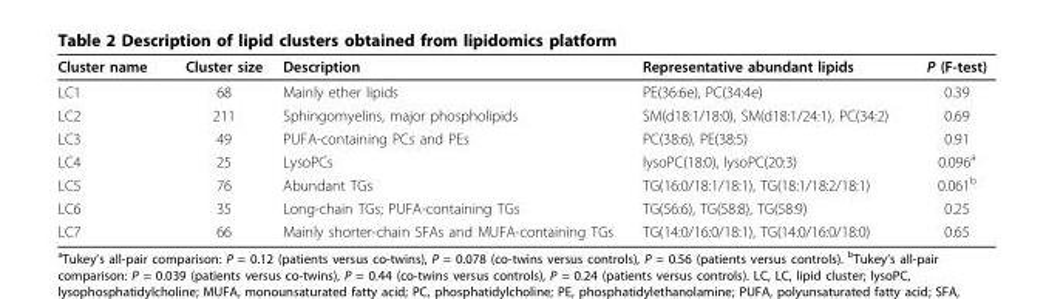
<table><thead><tr><td>Cluster name</td><td>Cluster size</td><td>Description</td><td>Representative abundant lipids</td><td>P (F-test)</td></tr></thead><tbody><tr><td>LC1</td><td>68</td><td>Mainly ether lipids</td><td>PE(36:6e), PC(34:4e)</td><td>0.39</td></tr><tr><td>LC2</td><td>211</td><td>Sphingomyelins, major phospholipids</td><td>SM(d18:1/18:0), SM(d18:1/24:1), PC(34:2)</td><td>0.69</td></tr><tr><td>LC3</td><td>49</td><td>PUFA-containing PCs and PEs</td><td>PC(38:6), PE(38:5)</td><td>0.91</td></tr><tr><td>LC4</td><td>25</td><td>LysoPCs</td><td>lysoPC(18:0), lysoPC(20:3)</td><td>0.096<sup>a</sup></td></tr><tr><td>LC5</td><td>76</td><td>Abundant TGs</td><td>TG(16:0/18:1/18:1), TG(18:1/18:2/18:1)</td><td>0.061<sup>b</sup></td></tr><tr><td>LC6</td><td>35</td><td>Long-chain TGs; PUFA-containing TGs</td><td>TG(56:6), TG(58:8), TG(58:9)</td><td>0.25</td></tr><tr><td>LC7</td><td>66</td><td>Mainly shorter-chain SFAs and MUFA-containing TGs</td><td>TG(14:0/16:0/18:1), TG(14:0/16:0/18:0)</td><td>0.65</td></tr></tbody></table>